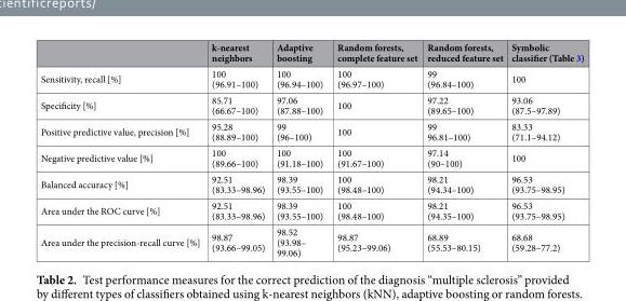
<table><thead><tr><td></td><td>k-nearest neighbors</td><td>Adaptive boosting</td><td>Random forests, complete feature set</td><td>Random forests, reduced feature set</td><td>Symbolic classifier (Table 3)</td></tr></thead><tbody><tr><td>Sensitivity, recall [%]</td><td>100 (96.91–100)</td><td>100 (96.94–100)</td><td>100 (96.97–100)</td><td>99 (96.84–100)</td><td>100</td></tr><tr><td>Specificity [%]</td><td>85.71 (66.67–100)</td><td>97.06 (87.88–100)</td><td>100</td><td>97.22 (89.65–100)</td><td>93.06 (87.5–97.89)</td></tr><tr><td>Positive predictive value, precision [%]</td><td>95.28 (88.89–100)</td><td>99 (96–100)</td><td>100</td><td>99 96.81–100)</td><td>83.33 (71.1–94.12)</td></tr><tr><td>Negative predictive value [%]</td><td>100 (89.66–100)</td><td>100 (91.18–100)</td><td>100 (91.67–100)</td><td>97.14 (90–100)</td><td>100</td></tr><tr><td>Balanced accuracy [%]</td><td>92.51 (83.33–98.96)</td><td>98.39 (93.55–100)</td><td>100 (98.48–100)</td><td>98.21 (94.34–100)</td><td>96.53 (93.75–98.95)</td></tr><tr><td>Area under the ROC curve [%]</td><td>92.51 (83.33–98.96)</td><td>98.39 (93.55–100)</td><td>100 (98.48–100)</td><td>98.21 (94.35–100)</td><td>96.53 (93.75–98.95)</td></tr><tr><td>Area under the precision-recall curve [%]</td><td>98.87 (93.66–99.05)</td><td>98.52 (93.98– 99.06)</td><td>98.87 (95.23–99.06)</td><td>68.89 (55.53–80.15)</td><td>68.68 (59.28–77.2)</td></tr></tbody></table>